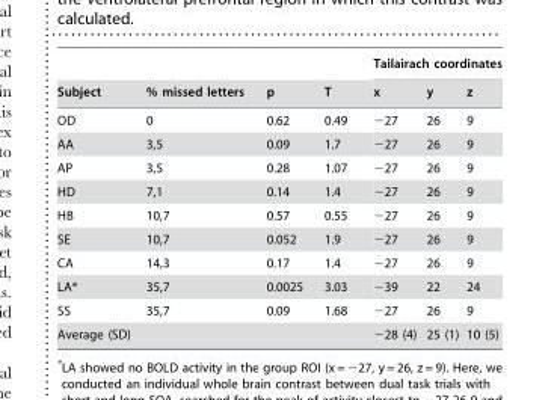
<table><thead><tr><td rowspan="2">Subject</td><td rowspan="2">% missed letters</td><td rowspan="2">p</td><td rowspan="2">T</td><td colspan="3">Tailairach coordinates</td></tr><tr><td>x</td><td>y</td><td>z</td></tr></thead><tbody><tr><td>OD</td><td>0</td><td>0.62</td><td>0.49</td><td>−27</td><td>26</td><td>9</td></tr><tr><td>AA</td><td>3,5</td><td>0.09</td><td>1.7</td><td>−27</td><td>26</td><td>9</td></tr><tr><td>AP</td><td>3,5</td><td>0.28</td><td>1.07</td><td>−27</td><td>26</td><td>9</td></tr><tr><td>HD</td><td>7,1</td><td>0.14</td><td>1.4</td><td>−27</td><td>26</td><td>9</td></tr><tr><td>HB</td><td>10,7</td><td>0.57</td><td>0.55</td><td>−27</td><td>26</td><td>9</td></tr><tr><td>SE</td><td>10,7</td><td>0.052</td><td>1.9</td><td>−27</td><td>26</td><td>9</td></tr><tr><td>CA</td><td>14,3</td><td>0.17</td><td>1.4</td><td>−27</td><td>26</td><td>9</td></tr><tr><td>LA*</td><td>35,7</td><td>0.0025</td><td>3.03</td><td>−39</td><td>22</td><td>24</td></tr><tr><td>SS</td><td>35,7</td><td>0.09</td><td>1.68</td><td>−27</td><td>26</td><td>9</td></tr><tr><td>Average (SD)</td><td></td><td></td><td></td><td>−28 (4)</td><td>25 (1)</td><td>10 (5)</td></tr></tbody></table>